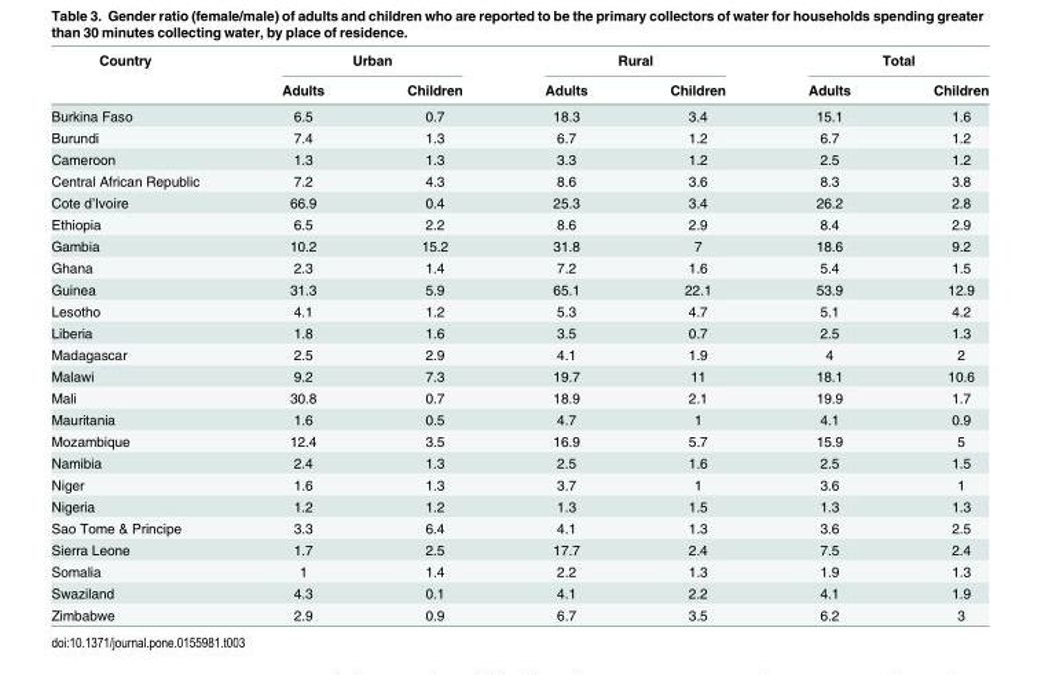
<table><thead><tr><td rowspan="2">Country</td><td colspan="2">Urban</td><td colspan="2">Rural</td><td colspan="2">Total</td></tr><tr><td>Adults</td><td>Children</td><td>Adults</td><td>Children</td><td>Adults</td><td>Children</td></tr></thead><tbody><tr><td>Burkina Faso</td><td>6.5</td><td>0.7</td><td>18.3</td><td>3.4</td><td>15.1</td><td>1.6</td></tr><tr><td>Burundi</td><td>7.4</td><td>1.3</td><td>6.7</td><td>1.2</td><td>6.7</td><td>1.2</td></tr><tr><td>Cameroon</td><td>1.3</td><td>1.3</td><td>3.3</td><td>1.2</td><td>2.5</td><td>1.2</td></tr><tr><td>Central African Republic</td><td>7.2</td><td>4.3</td><td>8.6</td><td>3.6</td><td>8.3</td><td>3.8</td></tr><tr><td>Cote d’Ivoire</td><td>66.9</td><td>0.4</td><td>25.3</td><td>3.4</td><td>26.2</td><td>2.8</td></tr><tr><td>Ethiopia</td><td>6.5</td><td>2.2</td><td>8.6</td><td>2.9</td><td>8.4</td><td>2.9</td></tr><tr><td>Gambia</td><td>10.2</td><td>15.2</td><td>31.8</td><td>7</td><td>18.6</td><td>9.2</td></tr><tr><td>Ghana</td><td>2.3</td><td>1.4</td><td>7.2</td><td>1.6</td><td>5.4</td><td>1.5</td></tr><tr><td>Guinea</td><td>31.3</td><td>5.9</td><td>65.1</td><td>22.1</td><td>53.9</td><td>12.9</td></tr><tr><td>Lesotho</td><td>4.1</td><td>1.2</td><td>5.3</td><td>4.7</td><td>5.1</td><td>4.2</td></tr><tr><td>Liberia</td><td>1.8</td><td>1.6</td><td>3.5</td><td>0.7</td><td>2.5</td><td>1.3</td></tr><tr><td>Madagascar</td><td>2.5</td><td>2.9</td><td>4.1</td><td>1.9</td><td>4</td><td>2</td></tr><tr><td>Malawi</td><td>9.2</td><td>7.3</td><td>19.7</td><td>11</td><td>18.1</td><td>10.6</td></tr><tr><td>Mali</td><td>30.8</td><td>0.7</td><td>18.9</td><td>2.1</td><td>19.9</td><td>1.7</td></tr><tr><td>Mauritania</td><td>1.6</td><td>0.5</td><td>4.7</td><td>1</td><td>4.1</td><td>0.9</td></tr><tr><td>Mozambique</td><td>12.4</td><td>3.5</td><td>16.9</td><td>5.7</td><td>15.9</td><td>5</td></tr><tr><td>Namibia</td><td>2.4</td><td>1.3</td><td>2.5</td><td>1.6</td><td>2.5</td><td>1.5</td></tr><tr><td>Niger</td><td>1.6</td><td>1.3</td><td>3.7</td><td>1</td><td>3.6</td><td>1</td></tr><tr><td>Nigeria</td><td>1.2</td><td>1.2</td><td>1.3</td><td>1.5</td><td>1.3</td><td>1.3</td></tr><tr><td>Sao Tome &amp; Principe</td><td>3.3</td><td>6.4</td><td>4.1</td><td>1.3</td><td>3.6</td><td>2.5</td></tr><tr><td>Sierra Leone</td><td>1.7</td><td>2.5</td><td>17.7</td><td>2.4</td><td>7.5</td><td>2.4</td></tr><tr><td>Somalia</td><td>1</td><td>1.4</td><td>2.2</td><td>1.3</td><td>1.9</td><td>1.3</td></tr><tr><td>Swaziland</td><td>4.3</td><td>0.1</td><td>4.1</td><td>2.2</td><td>4.1</td><td>1.9</td></tr><tr><td>Zimbabwe</td><td>2.9</td><td>0.9</td><td>6.7</td><td>3.5</td><td>6.2</td><td>3</td></tr></tbody></table>